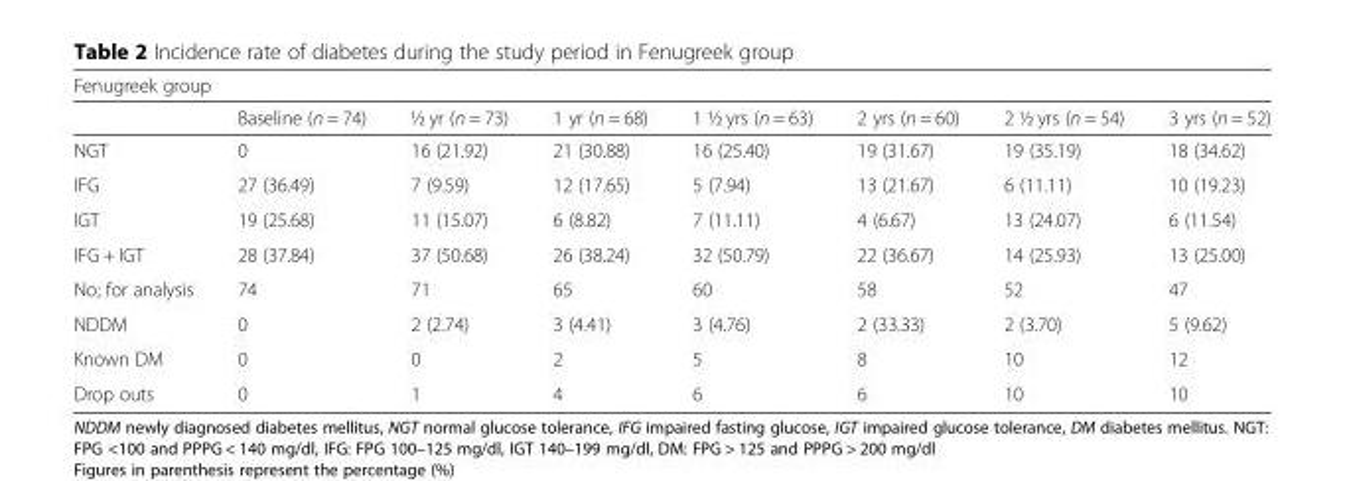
<table><thead><tr><td colspan="8">Fenugreek group</td></tr><tr><td></td><td>Baseline (n = 74)</td><td>½ yr (n = 73)</td><td>1 yr (n = 68)</td><td>1 ½ yrs (n = 63)</td><td>2 yrs (n = 60)</td><td>2 ½ yrs (n = 54)</td><td>3 yrs (n = 52)</td></tr></thead><tbody><tr><td>NGT</td><td>0</td><td>16 (21.92)</td><td>21 (30.88)</td><td>16 (25.40)</td><td>19 (31.67)</td><td>19 (35.19)</td><td>18 (34.62)</td></tr><tr><td>IFG</td><td>27 (36.49)</td><td>7 (9.59)</td><td>12 (17.65)</td><td>5 (7.94)</td><td>13 (21.67)</td><td>6 (11.11)</td><td>10 (19.23)</td></tr><tr><td>IGT</td><td>19 (25.68)</td><td>11 (15.07)</td><td>6 (8.82)</td><td>7 (11.11)</td><td>4 (6.67)</td><td>13 (24.07)</td><td>6 (11.54)</td></tr><tr><td>IFG + IGT</td><td>28 (37.84)</td><td>37 (50.68)</td><td>26 (38.24)</td><td>32 (50.79)</td><td>22 (36.67)</td><td>14 (25.93)</td><td>13 (25.00)</td></tr><tr><td>No; for analysis</td><td>74</td><td>71</td><td>65</td><td>60</td><td>58</td><td>52</td><td>47</td></tr><tr><td>NDDM</td><td>0</td><td>2 (2.74)</td><td>3 (4.41)</td><td>3 (4.76)</td><td>2 (33.33)</td><td>2 (3.70)</td><td>5 (9.62)</td></tr><tr><td>Known DM</td><td>0</td><td>0</td><td>2</td><td>5</td><td>8</td><td>10</td><td>12</td></tr><tr><td>Drop outs</td><td>0</td><td>1</td><td>4</td><td>6</td><td>6</td><td>10</td><td>10</td></tr></tbody></table>